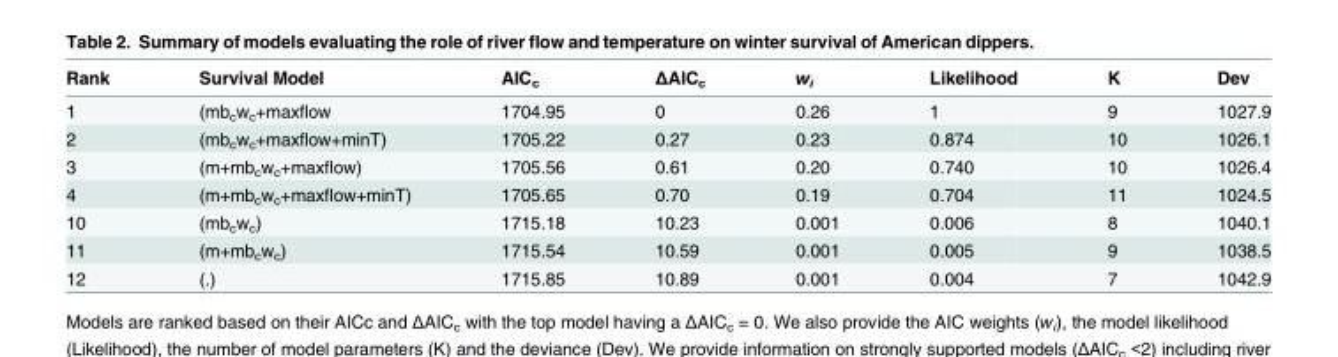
<table><thead><tr><td>Rank</td><td>Survival Model</td><td>AIC<sub>c</sub></td><td>ΔAIC<sub>c</sub></td><td>w<sub>i</sub></td><td>Likelihood</td><td>K</td><td>Dev</td></tr></thead><tbody><tr><td>1</td><td>(mb<sub>c</sub>w<sub>c</sub>+maxflow</td><td>1704.95</td><td>0</td><td>0.26</td><td>1</td><td>9</td><td>1027.9</td></tr><tr><td>2</td><td>(mb<sub>c</sub>w<sub>c</sub>+maxflow+minT)</td><td>1705.22</td><td>0.27</td><td>0.23</td><td>0.874</td><td>10</td><td>1026.1</td></tr><tr><td>3</td><td>(m+mb<sub>c</sub>w<sub>c</sub>+maxflow)</td><td>1705.56</td><td>0.61</td><td>0.20</td><td>0.740</td><td>10</td><td>1026.4</td></tr><tr><td>4</td><td>(m+mb<sub>c</sub>w<sub>c</sub>+maxflow+minT)</td><td>1705.65</td><td>0.70</td><td>0.19</td><td>0.704</td><td>11</td><td>1024.5</td></tr><tr><td>10</td><td>(mb<sub>c</sub>w<sub>c</sub>)</td><td>1715.18</td><td>10.23</td><td>0.001</td><td>0.006</td><td>8</td><td>1040.1</td></tr><tr><td>11</td><td>(m+mb<sub>c</sub>w<sub>c</sub>)</td><td>1715.54</td><td>10.59</td><td>0.001</td><td>0.005</td><td>9</td><td>1038.5</td></tr><tr><td>12</td><td>(.)</td><td>1715.85</td><td>10.89</td><td>0.001</td><td>0.004</td><td>7</td><td>1042.9</td></tr></tbody></table>